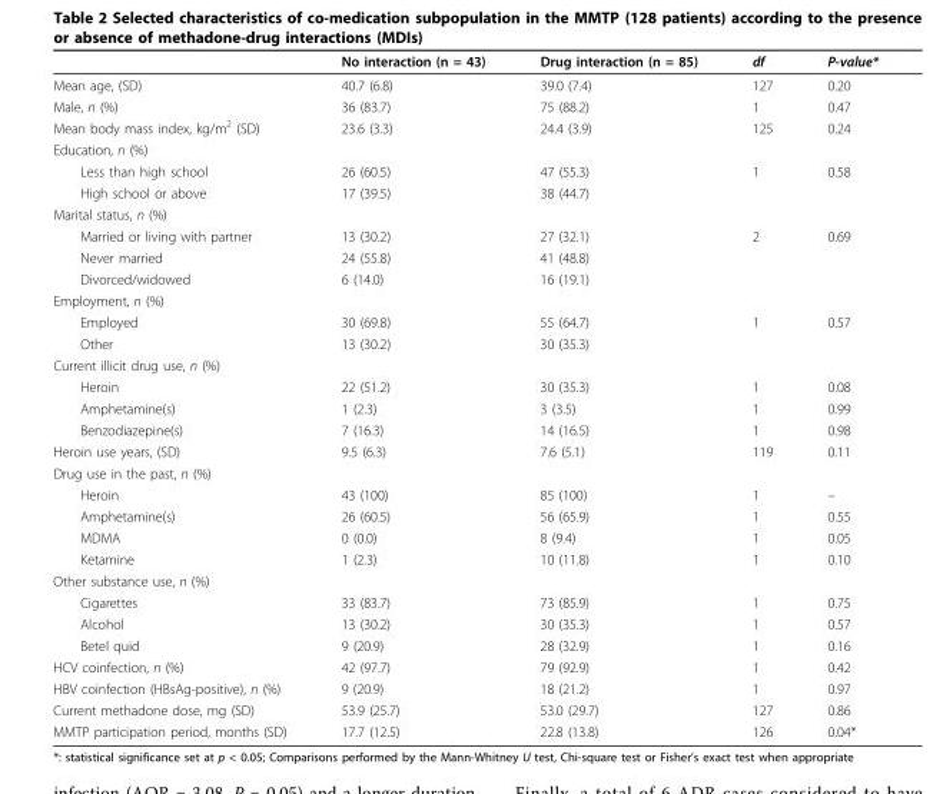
<table><thead><tr><td></td><td>No interaction (n = 43)</td><td>Drug interaction (n = 85)</td><td>df</td><td>P-value*</td></tr></thead><tbody><tr><td>Mean age, (SD)</td><td>40.7 (6.8)</td><td>39.0 (7.4)</td><td>127</td><td>0.20</td></tr><tr><td>Male, n (%)</td><td>36 (83.7)</td><td>75 (88.2)</td><td>1</td><td>0.47</td></tr><tr><td>Mean body mass index, kg/m<sup>2</sup> (SD)</td><td>23.6 (3.3)</td><td>24.4 (3.9)</td><td>125</td><td>0.24</td></tr><tr><td colspan="5">Education, n (%)</td></tr><tr><td>Less than high school</td><td>26 (60.5)</td><td>47 (55.3)</td><td>1</td><td>0.58</td></tr><tr><td>High school or above</td><td>17 (39.5)</td><td>38 (44.7)</td><td></td><td></td></tr><tr><td colspan="5">Marital status, n (%)</td></tr><tr><td>Married or living with partner</td><td>13 (30.2)</td><td>27 (32.1)</td><td>2</td><td>0.69</td></tr><tr><td>Never married</td><td>24 (55.8)</td><td>41 (48.8)</td><td></td><td></td></tr><tr><td>Divorced/widowed</td><td>6 (14.0)</td><td>16 (19.1)</td><td></td><td></td></tr><tr><td colspan="5">Employment, n (%)</td></tr><tr><td>Employed</td><td>30 (69.8)</td><td>55 (64.7)</td><td>1</td><td>0.57</td></tr><tr><td>Other</td><td>13 (30.2)</td><td>30 (35.3)</td><td></td><td></td></tr><tr><td colspan="5">Current illicit drug use, n (%)</td></tr><tr><td>Heroin</td><td>22 (51.2)</td><td>30 (35.3)</td><td>1</td><td>0.08</td></tr><tr><td>Amphetamine(s)</td><td>1 (2.3)</td><td>3 (3.5)</td><td>1</td><td>0.99</td></tr><tr><td>Benzodiazepine(s)</td><td>7 (16.3)</td><td>14 (16.5)</td><td>1</td><td>0.98</td></tr><tr><td>Heroin use years, (SD)</td><td>9.5 (6.3)</td><td>7.6 (5.1)</td><td>119</td><td>0.11</td></tr><tr><td colspan="5">Drug use in the past, n (%)</td></tr><tr><td>Heroin</td><td>43 (100)</td><td>85 (100)</td><td>1</td><td>–</td></tr><tr><td>Amphetamine(s)</td><td>26 (60.5)</td><td>56 (65.9)</td><td>1</td><td>0.55</td></tr><tr><td>MDMA</td><td>0 (0.0)</td><td>8 (9.4)</td><td>1</td><td>0.05</td></tr><tr><td>Ketamine</td><td>1 (2.3)</td><td>10 (11.8)</td><td>1</td><td>0.10</td></tr><tr><td colspan="5">Other substance use, n (%)</td></tr><tr><td>Cigarettes</td><td>33 (83.7)</td><td>73 (85.9)</td><td>1</td><td>0.75</td></tr><tr><td>Alcohol</td><td>13 (30.2)</td><td>30 (35.3)</td><td>1</td><td>0.57</td></tr><tr><td>Betel quid</td><td>9 (20.9)</td><td>28 (32.9)</td><td>1</td><td>0.16</td></tr><tr><td>HCV coinfection, n (%)</td><td>42 (97.7)</td><td>79 (92.9)</td><td>1</td><td>0.42</td></tr><tr><td>HBV coinfection (HBsAg-positive), n (%)</td><td>9 (20.9)</td><td>18 (21.2)</td><td>1</td><td>0.97</td></tr><tr><td>Current methadone dose, mg (SD)</td><td>53.9 (25.7)</td><td>53.0 (29.7)</td><td>127</td><td>0.86</td></tr><tr><td>MMTP participation period, months (SD)</td><td>17.7 (12.5)</td><td>22.8 (13.8)</td><td>126</td><td>0.04*</td></tr></tbody></table>